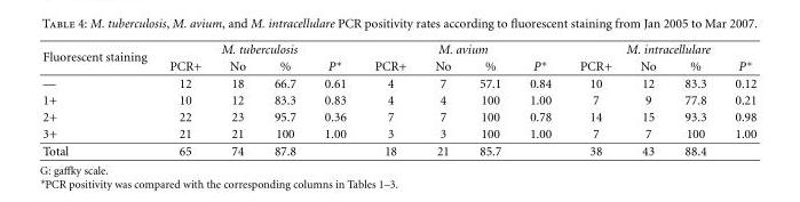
<table><thead><tr><td rowspan="2">Fluorescent staining</td><td colspan="4">M. tuberculosis</td><td colspan="4">M. avium</td><td colspan="4">M. intracellulare</td></tr><tr><td>PCR+</td><td>No</td><td>%</td><td>P∗</td><td>PCR+</td><td>No</td><td>%</td><td>P∗</td><td>PCR+</td><td>No</td><td>%</td><td>P∗</td></tr></thead><tbody><tr><td>—</td><td>12</td><td>18</td><td>66.7</td><td>0.61</td><td>4</td><td>7</td><td>57.1</td><td>0.84</td><td>10</td><td>12</td><td>83.3</td><td>0.12</td></tr><tr><td>1+</td><td>10</td><td>12</td><td>83.3</td><td>0.83</td><td>4</td><td>4</td><td>100</td><td>1.00</td><td>7</td><td>9</td><td>77.8</td><td>0.21</td></tr><tr><td>2+</td><td>22</td><td>23</td><td>95.7</td><td>0.36</td><td>7</td><td>7</td><td>100</td><td>0.78</td><td>14</td><td>15</td><td>93.3</td><td>0.98</td></tr><tr><td>3+</td><td>21</td><td>21</td><td>100</td><td>1.00</td><td>3</td><td>3</td><td>100</td><td>1.00</td><td>7</td><td>7</td><td>100</td><td>1.00</td></tr><tr><td>Total</td><td>65</td><td>74</td><td>87.8</td><td></td><td>18</td><td>21</td><td>85.7</td><td></td><td>38</td><td>43</td><td>88.4</td><td></td></tr></tbody></table>